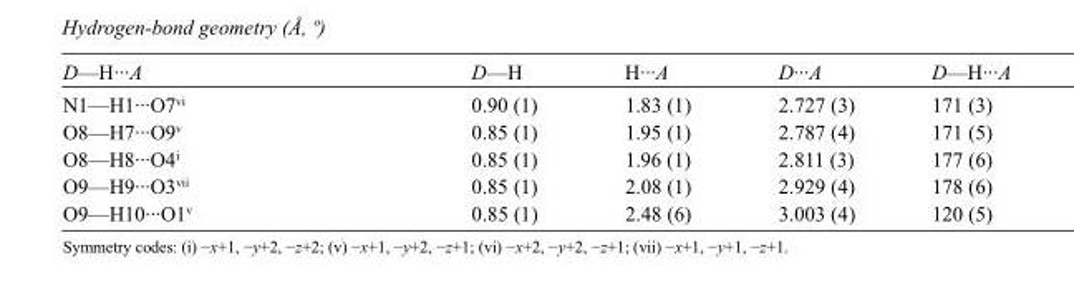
<table><tbody><tr><td>D—H···A</td><td>D—H</td><td>H···A</td><td>D···A</td><td>D—H···A</td></tr><tr><td>N1—H1···O7<sup>vi</sup></td><td>0.90 (1)</td><td>1.83 (1)</td><td>2.727 (3)</td><td>171 (3)</td></tr><tr><td>O8—H7···O9<sup>v</sup></td><td>0.85 (1)</td><td>1.95 (1)</td><td>2.787 (4)</td><td>171 (5)</td></tr><tr><td>O8—H8···O4<sup>i</sup></td><td>0.85 (1)</td><td>1.96 (1)</td><td>2.811 (3)</td><td>177 (6)</td></tr><tr><td>O9—H9···O3<sup>vii</sup></td><td>0.85 (1)</td><td>2.08 (1)</td><td>2.929 (4)</td><td>178 (6)</td></tr><tr><td>O9—H10···O1<sup>v</sup></td><td>0.85 (1)</td><td>2.48 (6)</td><td>3.003 (4)</td><td>120 (5)</td></tr></tbody></table>